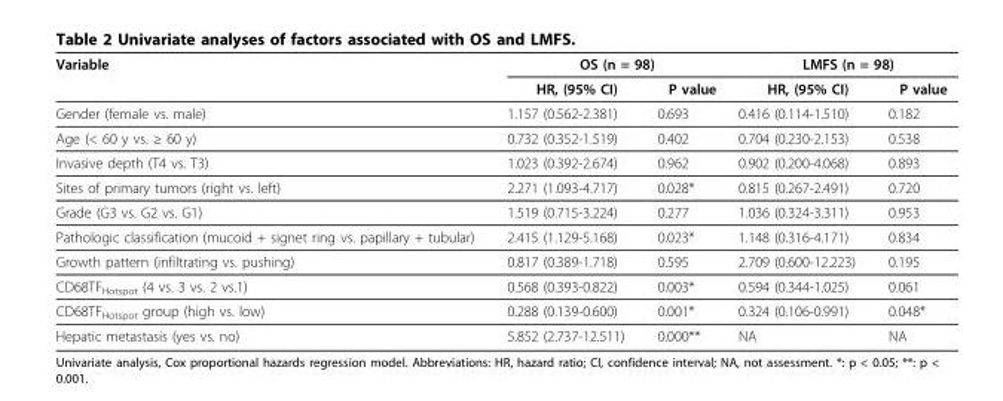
<table><thead><tr><td rowspan="2">Variable</td><td colspan="2">OS (n = 98)</td><td colspan="2">LMFS (n = 98)</td></tr><tr><td>HR, (95% CI)</td><td>P value</td><td>HR, (95% CI)</td><td>P value</td></tr></thead><tbody><tr><td>Gender (female vs. male)</td><td>1.157 (0.562-2.381)</td><td>0.693</td><td>0.416 (0.114-1.510)</td><td>0.182</td></tr><tr><td>Age (&lt; 60 y vs. ≥ 60 y)</td><td>0.732 (0.352-1.519)</td><td>0.402</td><td>0.704 (0.230-2.153)</td><td>0.538</td></tr><tr><td>Invasive depth (T4 vs. T3)</td><td>1.023 (0.392-2.674)</td><td>0.962</td><td>0.902 (0.200-4.068)</td><td>0.893</td></tr><tr><td>Sites of primary tumors (right vs. left)</td><td>2.271 (1.093-4.717)</td><td>0.028*</td><td>0.815 (0.267-2.491)</td><td>0.720</td></tr><tr><td>Grade (G3 vs. G2 vs. G1)</td><td>1.519 (0.715-3.224)</td><td>0.277</td><td>1.036 (0.324-3.311)</td><td>0.953</td></tr><tr><td>Pathologic classification (mucoid + signet ring vs. papillary + tubular)</td><td>2.415 (1.129-5.168)</td><td>0.023*</td><td>1.148 (0.316-4.171)</td><td>0.834</td></tr><tr><td>Growth pattern (infiltrating vs. pushing)</td><td>0.817 (0.389-1.718)</td><td>0.595</td><td>2.709 (0.600-12.223)</td><td>0.195</td></tr><tr><td>CD68TF<sub>Hotspot</sub> (4 vs. 3 vs. 2 vs.1)</td><td>0.568 (0.393-0.822)</td><td>0.003*</td><td>0.594 (0.344-1.025)</td><td>0.061</td></tr><tr><td>CD68TF<sub>Hotspot</sub> group (high vs. low)</td><td>0.288 (0.139-0.600)</td><td>0.001*</td><td>0.324 (0.106-0.991)</td><td>0.048*</td></tr><tr><td>Hepatic metastasis (yes vs. no)</td><td>5.852 (2.737-12.511)</td><td>0.000**</td><td>NA</td><td>NA</td></tr></tbody></table>